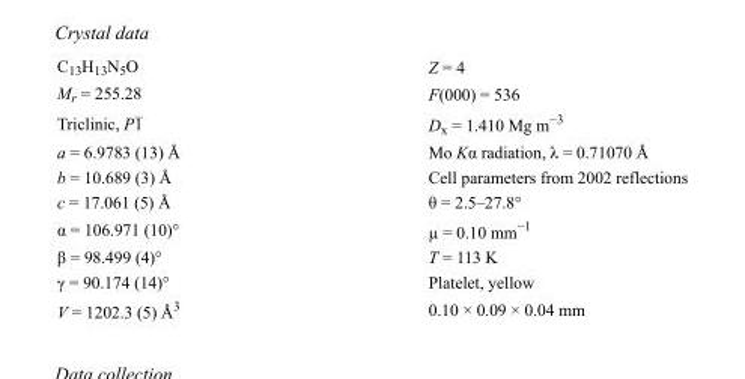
<table><tbody><tr><td>C<sub>13</sub>H<sub>13</sub>N<sub>5</sub>O</td><td>Z = 4</td></tr><tr><td>M<sub>r</sub> = 255.28</td><td>F(000) = 536</td></tr><tr><td>Triclinic, P1</td><td>D<sub>x</sub> = 1.410 Mg m<sup>−3</sup></td></tr><tr><td>a = 6.9783 (13) Å</td><td>Mo Kα radiation, λ = 0.71070 Å</td></tr><tr><td>b = 10.689 (3) Å</td><td>Cell parameters from 2002 reflections</td></tr><tr><td>c = 17.061 (5) Å</td><td>θ = 2.5–27.8°</td></tr><tr><td>α = 106.971 (10)°</td><td>µ = 0.10 mm<sup>−1</sup></td></tr><tr><td>β = 98.499 (4)°</td><td>T = 113 K</td></tr><tr><td>γ = 90.174 (14)°</td><td>Platelet, yellow</td></tr><tr><td>V = 1202.3 (5) Å<sup>3</sup></td><td>0.10 × 0.09 × 0.04 mm</td></tr></tbody></table>